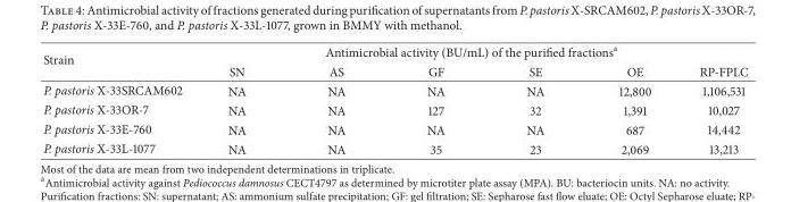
<table><thead><tr><td rowspan="2">Strain</td><td colspan="6">Antimicrobial activity (BU/mL) of the purified fractions<sup>a</sup></td></tr><tr><td>SN</td><td>AS</td><td>GF</td><td>SE</td><td>OE</td><td>RP-FPLC</td></tr></thead><tbody><tr><td>P. pastoris X-33SRCAM602</td><td>NA</td><td>NA</td><td>NA</td><td>NA</td><td>12,800</td><td>1,106,531</td></tr><tr><td>P. pastoris X-33OR-7</td><td>NA</td><td>NA</td><td>127</td><td>32</td><td>1,391</td><td>10,027</td></tr><tr><td>P. pastoris X-33E-760</td><td>NA</td><td>NA</td><td>NA</td><td>NA</td><td>687</td><td>14,442</td></tr><tr><td>P. pastoris X-33L-1077</td><td>NA</td><td>NA</td><td>35</td><td>23</td><td>2,069</td><td>13,213</td></tr></tbody></table>